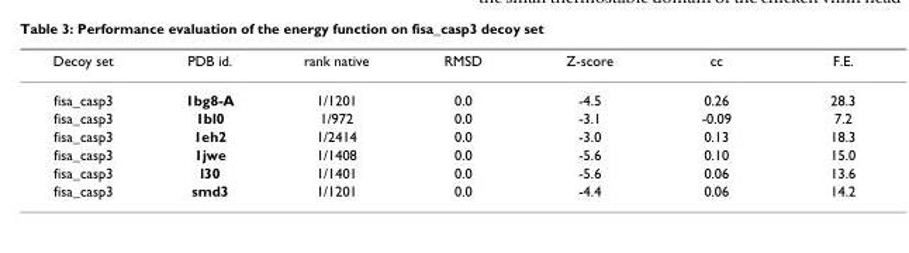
<table><thead><tr><td>Decoy set</td><td>PDB id.</td><td>rank native</td><td>RMSD</td><td>Z-score</td><td>cc</td><td>F.E.</td></tr></thead><tbody><tr><td>fisa_casp3</td><td>1bg8-A</td><td>1/1201</td><td>0.0</td><td>-4.5</td><td>0.26</td><td>28.3</td></tr><tr><td>fisa_casp3</td><td>1bl0</td><td>1/972</td><td>0.0</td><td>-3.1</td><td>-0.09</td><td>7.2</td></tr><tr><td>fisa_casp3</td><td>1eh2</td><td>1/2414</td><td>0.0</td><td>-3.0</td><td>0.13</td><td>18.3</td></tr><tr><td>fisa_casp3</td><td>1jwe</td><td>1/1408</td><td>0.0</td><td>-5.6</td><td>0.10</td><td>15.0</td></tr><tr><td>fisa_casp3</td><td>l30</td><td>1/1401</td><td>0.0</td><td>-5.6</td><td>0.06</td><td>13.6</td></tr><tr><td>fisa_casp3</td><td>smd3</td><td>1/1201</td><td>0.0</td><td>-4.4</td><td>0.06</td><td>14.2</td></tr></tbody></table>